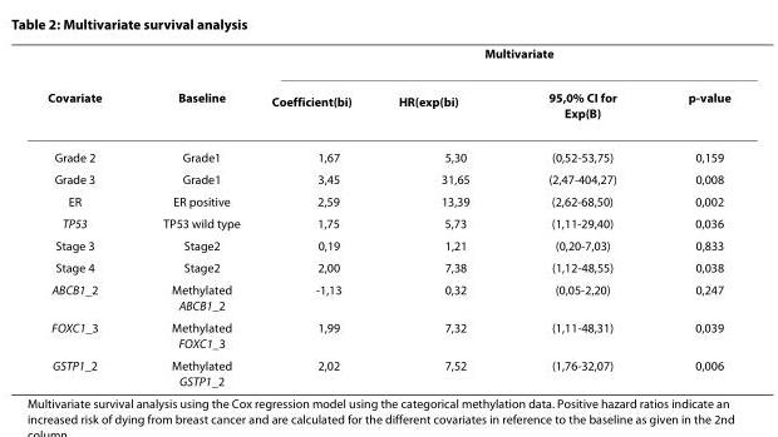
<table><thead><tr><td rowspan="2">Covariate</td><td rowspan="2">Baseline</td><td colspan="4">Multivariate</td></tr><tr><td>Coefficient(b<sub>i</sub>)</td><td>HR(exp(b<sub>i</sub>)</td><td>95,0% CI for Exp(B)</td><td>p-value</td></tr></thead><tbody><tr><td>Grade 2</td><td>Grade1</td><td>1,67</td><td>5,30</td><td>(0,52-53,75)</td><td>0,159</td></tr><tr><td>Grade 3</td><td>Grade1</td><td>3,45</td><td>31,65</td><td>(2,47-404,27)</td><td>0,008</td></tr><tr><td>ER</td><td>ER positive</td><td>2,59</td><td>13,39</td><td>(2,62-68,50)</td><td>0,002</td></tr><tr><td>TP53</td><td>TP53 wild type</td><td>1,75</td><td>5,73</td><td>(1,11-29,40)</td><td>0,036</td></tr><tr><td>Stage 3</td><td>Stage2</td><td>0,19</td><td>1,21</td><td>(0,20-7,03)</td><td>0,833</td></tr><tr><td>Stage 4</td><td>Stage2</td><td>2,00</td><td>7,38</td><td>(1,12-48,55)</td><td>0,038</td></tr><tr><td>ABCB1_2</td><td>Methylated ABCB1_2</td><td>-1,13</td><td>0,32</td><td>(0,05-2,20)</td><td>0,247</td></tr><tr><td>FOXC1_3</td><td>Methylated FOXC1_3</td><td>1,99</td><td>7,32</td><td>(1,11-48,31)</td><td>0,039</td></tr><tr><td>GSTP1_2</td><td>Methylated GSTP1_2</td><td>2,02</td><td>7,52</td><td>(1,76-32,07)</td><td>0,006</td></tr></tbody></table>